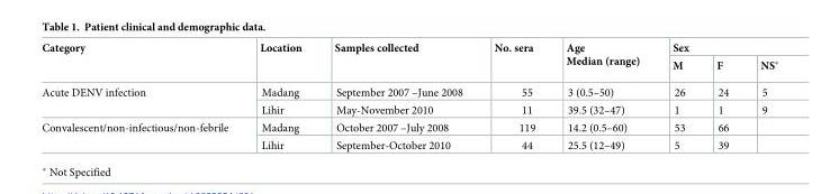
<table><thead><tr><td rowspan="2">Category</td><td rowspan="2">Location</td><td rowspan="2">Samples collected</td><td rowspan="2">No. sera</td><td rowspan="2">Age Median (range)</td><td colspan="3">Sex</td></tr><tr><td>M</td><td>F</td><td>NS*</td></tr></thead><tbody><tr><td rowspan="2">Acute DENV infection</td><td>Madang</td><td>September 2007 –June 2008</td><td>55</td><td>3 (0.5–50)</td><td>26</td><td>24</td><td>5</td></tr><tr><td>Lihir</td><td>May-November 2010</td><td>11</td><td>39.5 (32–47)</td><td>1</td><td>1</td><td>9</td></tr><tr><td rowspan="2">Convalescent/non-infectious/non-febrile</td><td>Madang</td><td>October 2007 –July 2008</td><td>119</td><td>14.2 (0.5–60)</td><td>53</td><td>66</td><td></td></tr><tr><td>Lihir</td><td>September-October 2010</td><td>44</td><td>25.5 (12–49)</td><td>5</td><td>39</td><td></td></tr></tbody></table>